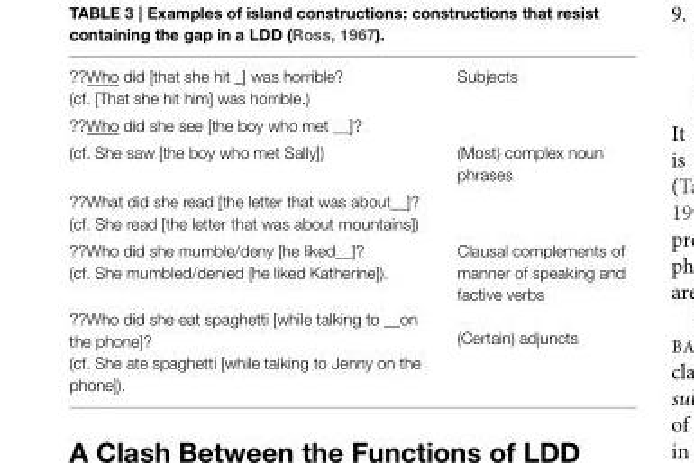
<table><tbody><tr><td>??Who did [that she hit _] was horrible? (cf. [That she hit him] was horrible.)</td><td>Subjects</td></tr><tr><td colspan="2">??Who did she see [the boy who met __]?</td></tr><tr><td>(cf. She saw [the boy who met Sally])</td><td>(Most) complex noun phrases</td></tr><tr><td colspan="2">??What did she read [the letter that was about__]? (cf. She read [the letter that was about mountains])</td></tr><tr><td>??Who did she mumble/deny [he liked__]? (cf. She mumbled/denied [he liked Katherine]).</td><td>Clausal complements of manner of speaking and factive verbs</td></tr><tr><td>??Who did she eat spaghetti [while talking to __on the phone]? (cf. She ate spaghetti [while talking to Jenny on the phone]).</td><td>(Certain) adjuncts</td></tr></tbody></table>